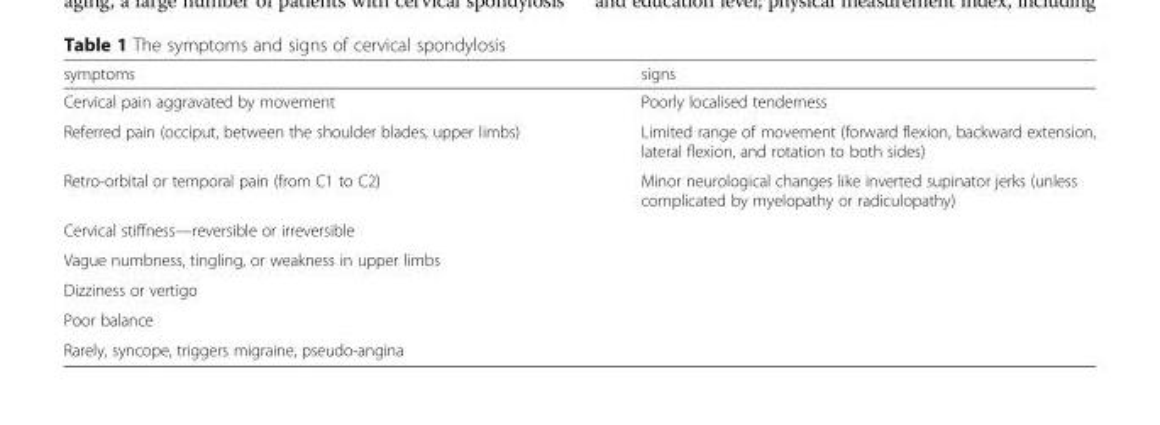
<table><thead><tr><td>symptoms</td><td>signs</td></tr></thead><tbody><tr><td>Cervical pain aggravated by movement</td><td>Poorly localised tenderness</td></tr><tr><td>Referred pain (occiput, between the shoulder blades, upper limbs)</td><td>Limited range of movement (forward flexion, backward extension, lateral flexion, and rotation to both sides)</td></tr><tr><td>Retro-orbital or temporal pain (from C1 to C2)</td><td>Minor neurological changes like inverted supinator jerks (unless complicated by myelopathy or radiculopathy)</td></tr><tr><td colspan="2">Cervical stiffness—reversible or irreversible</td></tr><tr><td colspan="2">Vague numbness, tingling, or weakness in upper limbs</td></tr><tr><td colspan="2">Dizziness or vertigo</td></tr><tr><td colspan="2">Poor balance</td></tr><tr><td colspan="2">Rarely, syncope, triggers migraine, pseudo-angina</td></tr></tbody></table>